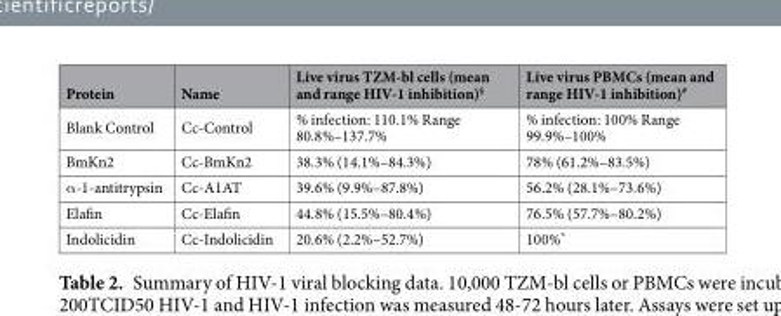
<table><thead><tr><td>Protein</td><td>Name</td><td>Live virus TZM-bl cells (mean and range HIV-1 inhibition)<sup>§</sup></td><td>Live virus PBMCs (mean and range HIV-1 inhibition)<sup>#</sup></td></tr></thead><tbody><tr><td>Blank Control</td><td>Cc-Control</td><td>% infection: 110.1% Range 80.8%–137.7%</td><td>% infection: 100% Range 99.9%–100%</td></tr><tr><td>BmKn2</td><td>Cc-BmKn2</td><td>38.3% (14.1%–84.3%)</td><td>78% (61.2%–83.5%)</td></tr><tr><td>α-1-antitrypsin</td><td>Cc-A1AT</td><td>39.6% (9.9%–87.8%)</td><td>56.2% (28.1%–73.6%)</td></tr><tr><td>Elafin</td><td>Cc-Elafin</td><td>44.8% (15.5%–80.4%)</td><td>76.5% (57.7%–80.2%)</td></tr><tr><td>Indolicidin</td><td>Cc-Indolicidin</td><td>20.6% (2.2%–52.7%)</td><td>100%*</td></tr></tbody></table>